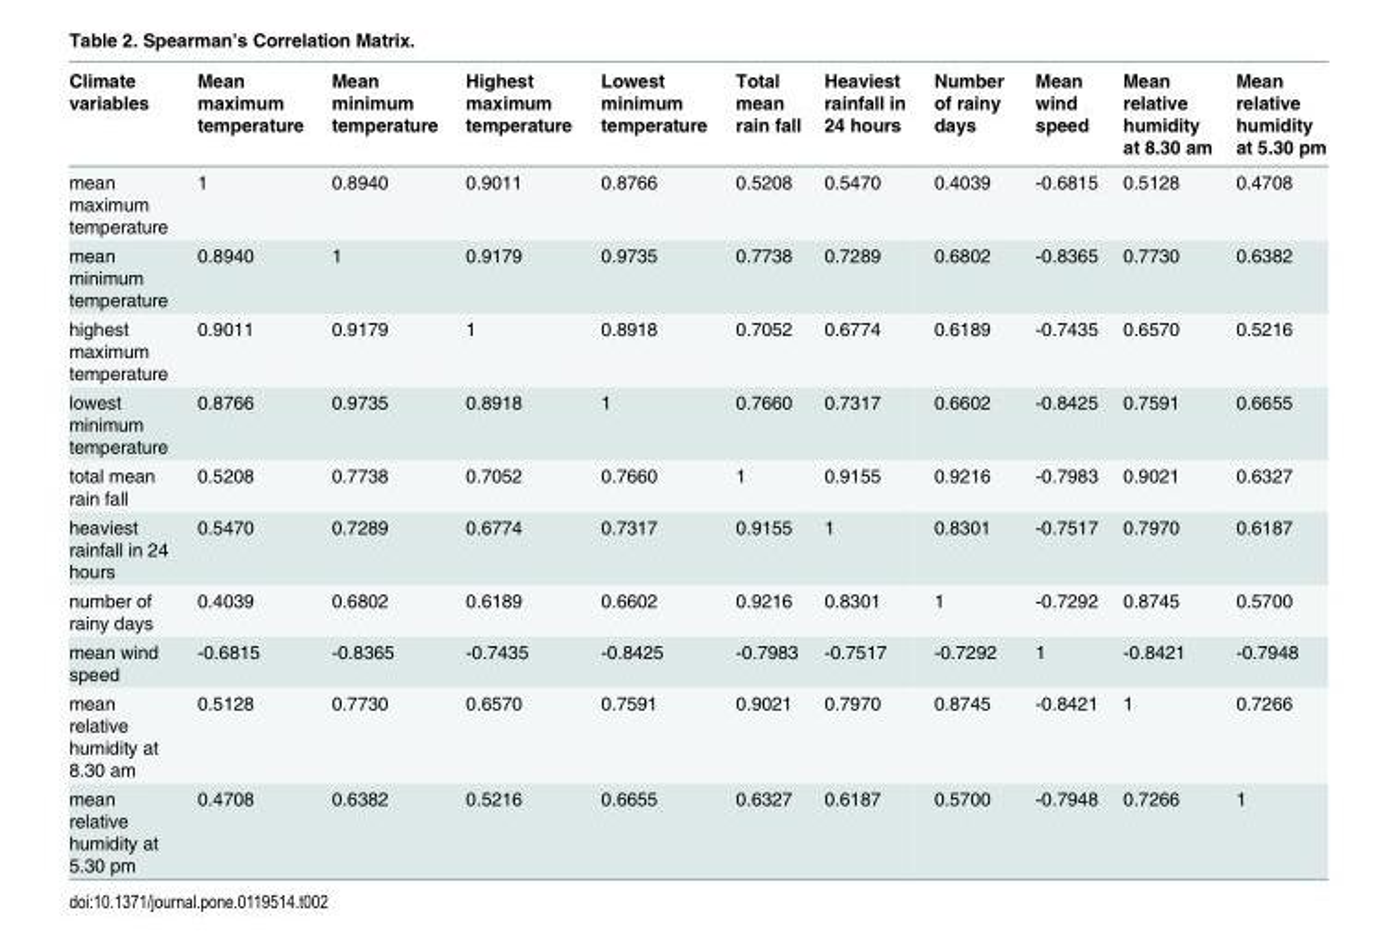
<table><thead><tr><td>Climate variables</td><td>Mean maximum temperature</td><td>Mean minimum temperature</td><td>Highest maximum temperature</td><td>Lowest minimum temperature</td><td>Total mean rain fall</td><td>Heaviest rainfall in 24 hours</td><td>Number of rainy days</td><td>Mean wind speed</td><td>Mean relative humidity at 8.30 am</td><td>Mean relative humidity at 5.30 pm</td></tr></thead><tbody><tr><td>mean maximum temperature</td><td>1</td><td>0.8940</td><td>0.9011</td><td>0.8766</td><td>0.5208</td><td>0.5470</td><td>0.4039</td><td>-0.6815</td><td>0.5128</td><td>0.4708</td></tr><tr><td>mean minimum temperature</td><td>0.8940</td><td>1</td><td>0.9179</td><td>0.9735</td><td>0.7738</td><td>0.7289</td><td>0.6802</td><td>-0.8365</td><td>0.7730</td><td>0.6382</td></tr><tr><td>highest maximum temperature</td><td>0.9011</td><td>0.9179</td><td>1</td><td>0.8918</td><td>0.7052</td><td>0.6774</td><td>0.6189</td><td>-0.7435</td><td>0.6570</td><td>0.5216</td></tr><tr><td>lowest minimum temperature</td><td>0.8766</td><td>0.9735</td><td>0.8918</td><td>1</td><td>0.7660</td><td>0.7317</td><td>0.6602</td><td>-0.8425</td><td>0.7591</td><td>0.6655</td></tr><tr><td>total mean rain fall</td><td>0.5208</td><td>0.7738</td><td>0.7052</td><td>0.7660</td><td>1</td><td>0.9155</td><td>0.9216</td><td>-0.7983</td><td>0.9021</td><td>0.6327</td></tr><tr><td>heaviest rainfall in 24 hours</td><td>0.5470</td><td>0.7289</td><td>0.6774</td><td>0.7317</td><td>0.9155</td><td>1</td><td>0.8301</td><td>-0.7517</td><td>0.7970</td><td>0.6187</td></tr><tr><td>number of rainy days</td><td>0.4039</td><td>0.6802</td><td>0.6189</td><td>0.6602</td><td>0.9216</td><td>0.8301</td><td>1</td><td>-0.7292</td><td>0.8745</td><td>0.5700</td></tr><tr><td>mean wind speed</td><td>-0.6815</td><td>-0.8365</td><td>-0.7435</td><td>-0.8425</td><td>-0.7983</td><td>-0.7517</td><td>-0.7292</td><td>1</td><td>-0.8421</td><td>-0.7948</td></tr><tr><td>mean relative humidity at 8.30 am</td><td>0.5128</td><td>0.7730</td><td>0.6570</td><td>0.7591</td><td>0.9021</td><td>0.7970</td><td>0.8745</td><td>-0.8421</td><td>1</td><td>0.7266</td></tr><tr><td>mean relative humidity at 5.30 pm</td><td>0.4708</td><td>0.6382</td><td>0.5216</td><td>0.6655</td><td>0.6327</td><td>0.6187</td><td>0.5700</td><td>-0.7948</td><td>0.7266</td><td>1</td></tr></tbody></table>